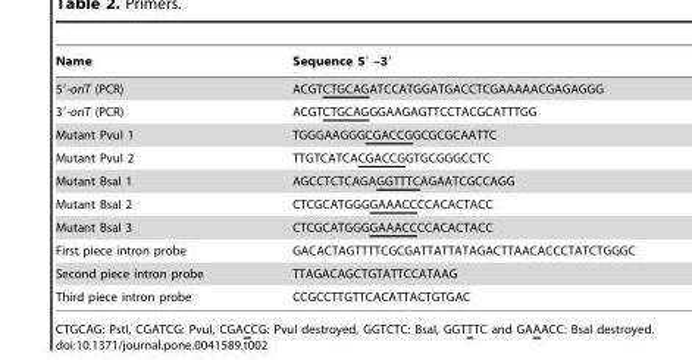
<table><thead><tr><td>Name</td><td>Sequence 5′ –3′</td></tr></thead><tbody><tr><td>5′-oriT (PCR)</td><td>ACGTCTGCAGATCCATGGATGACCTCGAAAAACGAGAGGG</td></tr><tr><td>3′-oriT (PCR)</td><td>ACGTCTGCAGGGAAGAGTTCCTACGCATTTGG</td></tr><tr><td>Mutant PvuI 1</td><td>TGGGAAGGGCGACCGGCGCGCAATTC</td></tr><tr><td>Mutant PvuI 2</td><td>TTGTCATCACGACCGGTGCGGGCCTC</td></tr><tr><td>Mutant BsaI 1</td><td>AGCCTCTCAGAGGTTTCAGAATCGCCAGG</td></tr><tr><td>Mutant BsaI 2</td><td>CTCGCATGGGGAAACCCCACACTACC</td></tr><tr><td>Mutant BsaI 3</td><td>CTCGCATGGGGAAACCCCACACTACC</td></tr><tr><td>First piece intron probe</td><td>GACACTAGTTTTCGCGATTATTATAGACTTAACACCCTATCTGGGC</td></tr><tr><td>Second piece intron probe</td><td>TTAGACAGCTGTATTCCATAAG</td></tr><tr><td>Third piece intron probe</td><td>CCGCCTTGTTCACATTACTGTGAC</td></tr></tbody></table>